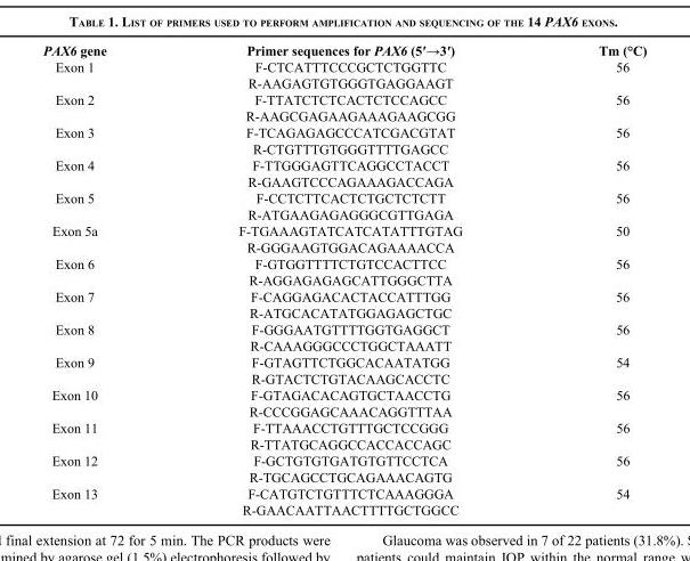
<table><thead><tr><td>PAX6 gene</td><td>Primer sequences for PAX6 (5′→3′)</td><td>Tm (°C)</td></tr></thead><tbody><tr><td rowspan="2">Exon 1</td><td>F-CTCATTTCCCGCTCTGGTTC</td><td>56</td></tr><tr><td>R-AAGAGTGTGGGTGAGGAAGT</td><td></td></tr><tr><td rowspan="2">Exon 2</td><td>F-TTATCTCTCACTCTCCAGCC</td><td>56</td></tr><tr><td>R-AAGCGAGAAGAAAGAAGCGG</td><td></td></tr><tr><td rowspan="2">Exon 3</td><td>F-TCAGAGAGCCCATCGACGTAT</td><td>56</td></tr><tr><td>R-CTGTTTGTGGGTTTTGAGCC</td><td></td></tr><tr><td rowspan="2">Exon 4</td><td>F-TTGGGAGTTCAGGCCTACCT</td><td>56</td></tr><tr><td>R-GAAGTCCCAGAAAGACCAGA</td><td></td></tr><tr><td rowspan="2">Exon 5</td><td>F-CCTCTTCACTCTGCTCTCTT</td><td>56</td></tr><tr><td>R-ATGAAGAGAGGGCGTTGAGA</td><td></td></tr><tr><td rowspan="2">Exon 5a</td><td>F-TGAAAGTATCATCATATTTGTAG</td><td>50</td></tr><tr><td>R-GGGAAGTGGACAGAAAACCA</td><td></td></tr><tr><td rowspan="2">Exon 6</td><td>F-GTGGTTTTCTGTCCACTTCC</td><td>56</td></tr><tr><td>R-AGGAGAGAGCATTGGGCTTA</td><td></td></tr><tr><td rowspan="2">Exon 7</td><td>F-CAGGAGACACTACCATTTGG</td><td>56</td></tr><tr><td>R-ATGCACATATGGAGAGCTGC</td><td></td></tr><tr><td rowspan="2">Exon 8</td><td>F-GGGAATGTTTTGGTGAGGCT</td><td>56</td></tr><tr><td>R-CAAAGGGCCCTGGCTAAATT</td><td></td></tr><tr><td rowspan="2">Exon 9</td><td>F-GTAGTTCTGGCACAATATGG</td><td>54</td></tr><tr><td>R-GTACTCTGTACAAGCACCTC</td><td></td></tr><tr><td rowspan="2">Exon 10</td><td>F-GTAGACACAGTGCTAACCTG</td><td>56</td></tr><tr><td>R-CCCGGAGCAAACAGGTTTAA</td><td></td></tr><tr><td rowspan="2">Exon 11</td><td>F-TTAAACCTGTTTGCTCCGGG</td><td>56</td></tr><tr><td>R-TTATGCAGGCCACCACCAGC</td><td></td></tr><tr><td rowspan="2">Exon 12</td><td>F-GCTGTGTGATGTGTTCCTCA</td><td>56</td></tr><tr><td>R-TGCAGCCTGCAGAAACAGTG</td><td></td></tr><tr><td rowspan="2">Exon 13</td><td>F-CATGTCTGTTTCTCAAAGGGA</td><td>54</td></tr><tr><td>R-GAACAATTAACTTTTGCTGGCC</td><td></td></tr></tbody></table>